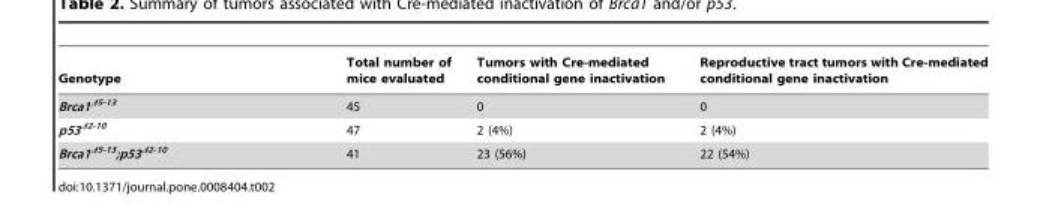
<table><thead><tr><td>Genotype</td><td>Total number of mice evaluated</td><td>Tumors with Cre-mediated conditional gene inactivation</td><td>Reproductive tract tumors with Cre-mediated conditional gene inactivation</td></tr></thead><tbody><tr><td>Brca1<sup>Δ5-13</sup></td><td>45</td><td>0</td><td>0</td></tr><tr><td>p53<sup>Δ2-10</sup></td><td>47</td><td>2 (4%)</td><td>2 (4%)</td></tr><tr><td>Brca1<sup>Δ5-13</sup>;p53<sup>Δ2-10</sup></td><td>41</td><td>23 (56%)</td><td>22 (54%)</td></tr></tbody></table>